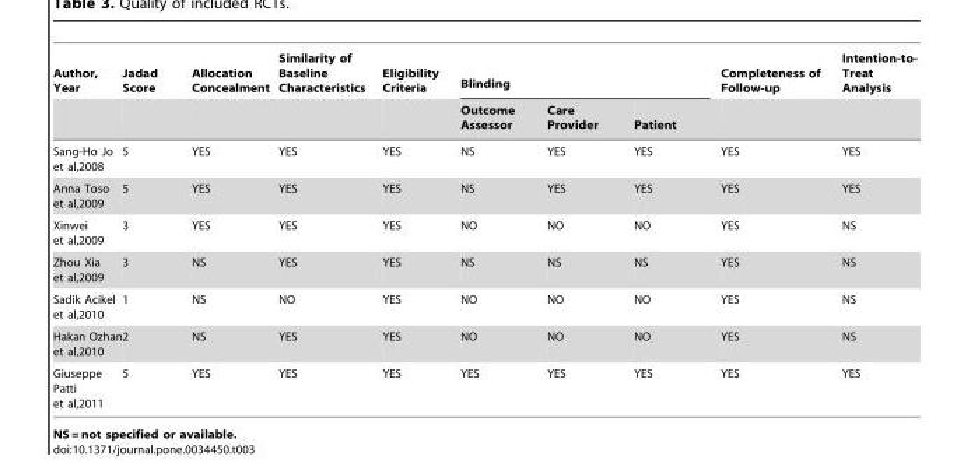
<table><thead><tr><td rowspan="2">Author, Year</td><td rowspan="2">Jadad Score</td><td rowspan="2">Allocation Concealment</td><td rowspan="2">Similarity of Baseline Characteristics</td><td rowspan="2">Eligibility Criteria</td><td colspan="3">Blinding</td><td rowspan="2">Completeness of Follow-up</td><td rowspan="2">Intention-to- Treat Analysis</td></tr><tr><td>Outcome Assessor</td><td>Care Provider</td><td>Patient</td></tr></thead><tbody><tr><td>Sang-Ho Jo et al,2008</td><td>5</td><td>YES</td><td>YES</td><td>YES</td><td>NS</td><td>YES</td><td>YES</td><td>YES</td><td>YES</td></tr><tr><td>Anna Toso et al,2009</td><td>5</td><td>YES</td><td>YES</td><td>YES</td><td>NS</td><td>YES</td><td>YES</td><td>YES</td><td>YES</td></tr><tr><td>Xinwei et al,2009</td><td>3</td><td>YES</td><td>YES</td><td>YES</td><td>NO</td><td>NO</td><td>NO</td><td>YES</td><td>NS</td></tr><tr><td>Zhou Xia et al,2009</td><td>3</td><td>NS</td><td>YES</td><td>YES</td><td>NS</td><td>NS</td><td>NS</td><td>YES</td><td>NS</td></tr><tr><td>Sadik Acikel et al,2010</td><td>1</td><td>NS</td><td>NO</td><td>YES</td><td>NO</td><td>NO</td><td>NO</td><td>YES</td><td>NS</td></tr><tr><td>Hakan Ozhan et al,2010</td><td>2</td><td>NS</td><td>YES</td><td>YES</td><td>NO</td><td>NO</td><td>NO</td><td>YES</td><td>NS</td></tr><tr><td>Giuseppe Patti et al,2011</td><td>5</td><td>YES</td><td>YES</td><td>YES</td><td>YES</td><td>YES</td><td>YES</td><td>YES</td><td>YES</td></tr></tbody></table>